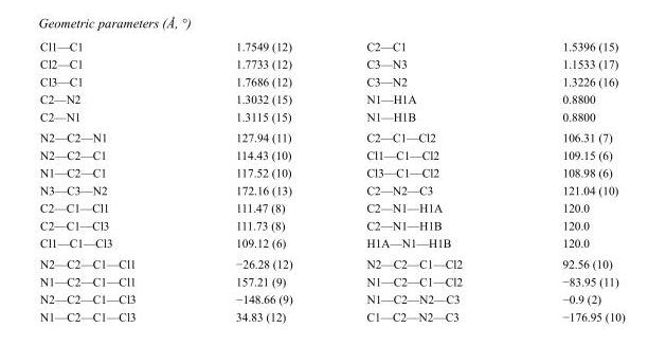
<table><tbody><tr><td>Cl1—C1</td><td>1.7549 (12)</td><td>C2—C1</td><td>1.5396 (15)</td></tr><tr><td>Cl2—C1</td><td>1.7733 (12)</td><td>C3—N3</td><td>1.1533 (17)</td></tr><tr><td>Cl3—C1</td><td>1.7686 (12)</td><td>C3—N2</td><td>1.3226 (16)</td></tr><tr><td>C2—N2</td><td>1.3032 (15)</td><td>N1—H1A</td><td>0.8800</td></tr><tr><td>C2—N1</td><td>1.3115 (15)</td><td>N1—H1B</td><td>0.8800</td></tr><tr><td>N2—C2—N1</td><td>127.94 (11)</td><td>C2—C1—Cl2</td><td>106.31 (7)</td></tr><tr><td>N2—C2—C1</td><td>114.43 (10)</td><td>Cl1—C1—Cl2</td><td>109.15 (6)</td></tr><tr><td>N1—C2—C1</td><td>117.52 (10)</td><td>Cl3—C1—Cl2</td><td>108.98 (6)</td></tr><tr><td>N3—C3—N2</td><td>172.16 (13)</td><td>C2—N2—C3</td><td>121.04 (10)</td></tr><tr><td>C2—C1—Cl1</td><td>111.47 (8)</td><td>C2—N1—H1A</td><td>120.0</td></tr><tr><td>C2—C1—Cl3</td><td>111.73 (8)</td><td>C2—N1—H1B</td><td>120.0</td></tr><tr><td>Cl1—C1—Cl3</td><td>109.12 (6)</td><td>H1A—N1—H1B</td><td>120.0</td></tr><tr><td>N2—C2—C1—Cl1</td><td>−26.28 (12)</td><td>N2—C2—C1—Cl2</td><td>92.56 (10)</td></tr><tr><td>N1—C2—C1—Cl1</td><td>157.21 (9)</td><td>N1—C2—C1—Cl2</td><td>−83.95 (11)</td></tr><tr><td>N2—C2—C1—Cl3</td><td>−148.66 (9)</td><td>N1—C2—N2—C3</td><td>−0.9 (2)</td></tr><tr><td>N1—C2—C1—Cl3</td><td>34.83 (12)</td><td>C1—C2—N2—C3</td><td>−176.95 (10)</td></tr></tbody></table>